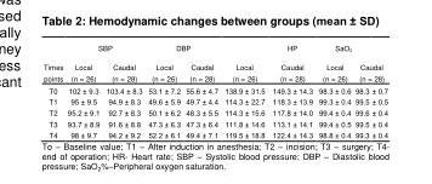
<table><thead><tr><td rowspan="2">Times points</td><td colspan="2">SBP</td><td colspan="2">DBP</td><td colspan="2">HP</td><td colspan="2">SaO<sub>2</sub></td></tr><tr><td>Local (n = 26)</td><td>Caudal (n = 28)</td><td>Local (n = 26)</td><td>Caudal (n = 28)</td><td>Local (n = 26)</td><td>Caudal (n = 28)</td><td>Local (n = 26)</td><td>Caudal (n = 28)</td></tr></thead><tbody><tr><td>T0</td><td>102 ± 9.3</td><td>103.4 ± 8.3</td><td>53.1 ± 7.2</td><td>55.6 ± 4.7</td><td>138.9 ± 31.5</td><td>149.3 ± 14.3</td><td>98.3 ± 0.6</td><td>98.3 ± 0.7</td></tr><tr><td>T1</td><td>95 ± 9.5</td><td>94.9 ± 8.3</td><td>49.6 ± 5.9</td><td>49.7 ± 4.4</td><td>114.3 ± 22.7</td><td>118.3 ± 13.9</td><td>99.3 ± 0.4</td><td>99.5 ± 0.5</td></tr><tr><td>T2</td><td>95.2 ± 9.1</td><td>92.7 ± 8.3</td><td>50.1 ± 6.2</td><td>48.3 ± 5.5</td><td>114.3 ± 15.6</td><td>117.8 ± 14.0</td><td>99.4 ± 0.4</td><td>99.6 ± 0.4</td></tr><tr><td>T3</td><td>93.7 ± 8.9</td><td>91.6 ± 8.8</td><td>47.3 ± 6.3</td><td>47.3 ± 6.4</td><td>111.8 ± 14.6</td><td>113.1 ± 14.1</td><td>99.4 ± 0.5</td><td>99.5 ± 0.4</td></tr><tr><td>T4</td><td>98 ± 9.7</td><td>94.2 ± 9.2</td><td>52.2 ± 6.1</td><td>49.4 ± 7.1</td><td>119.5 ± 18.8</td><td>122.4 ± 14.3</td><td>98.8 ± 0.4</td><td>99.3 ± 0.4</td></tr></tbody></table>